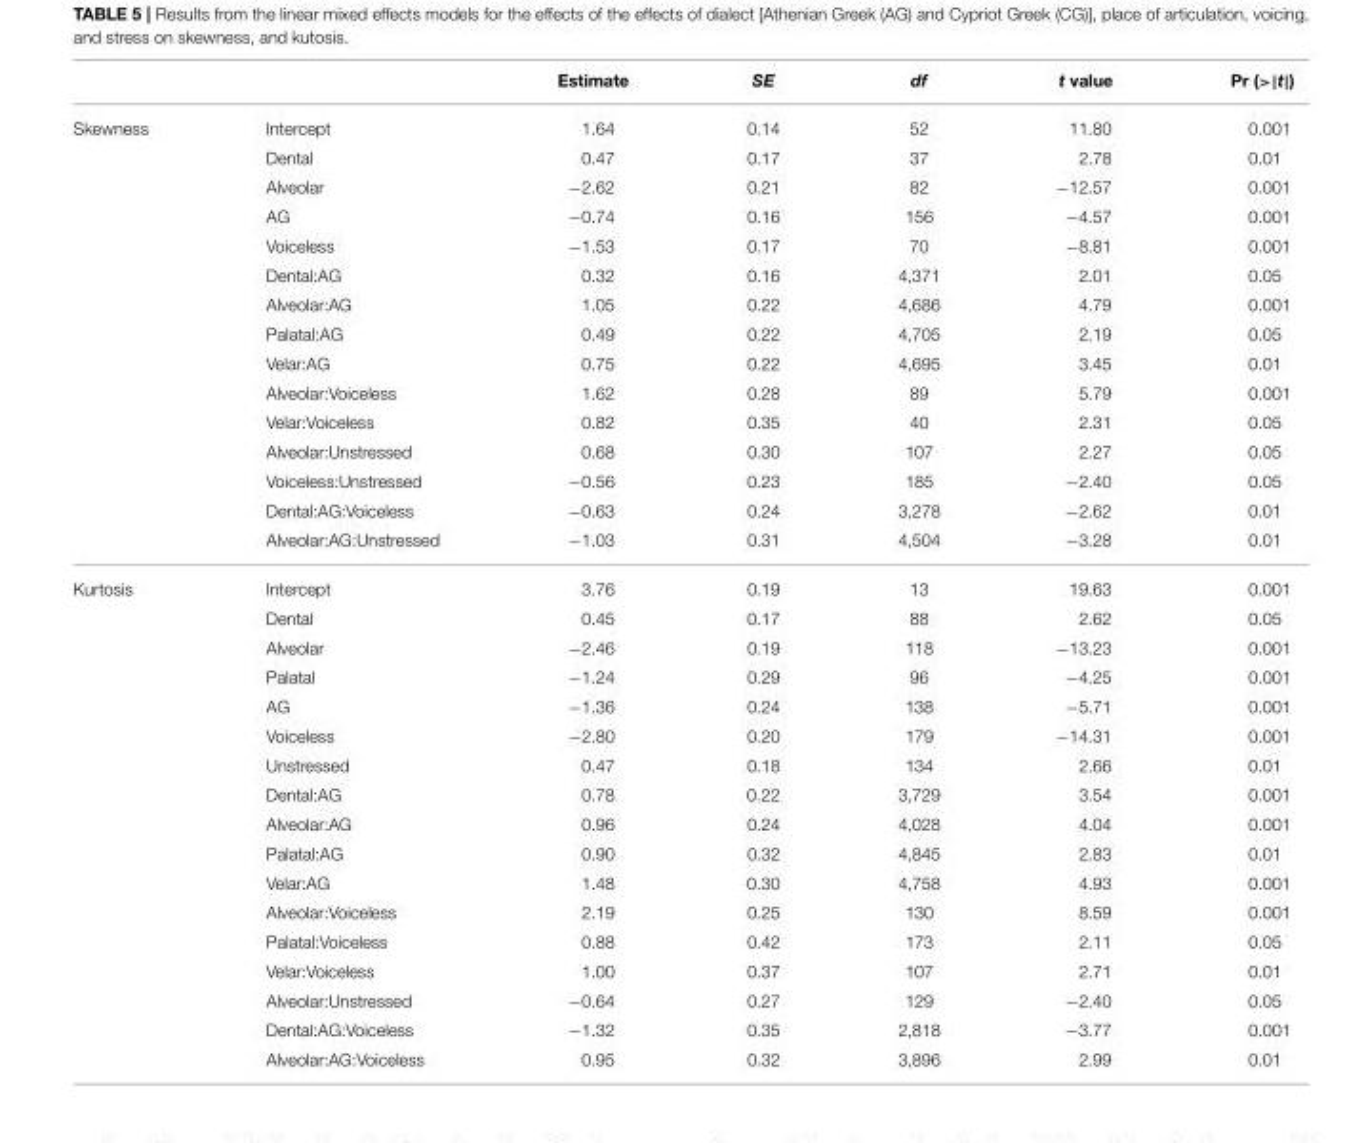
<table><thead><tr><td></td><td></td><td>Estimate</td><td>SE</td><td>df</td><td>t value</td><td>Pr (&gt;|t|)</td></tr></thead><tbody><tr><td rowspan="15">Skewness</td><td>Intercept</td><td>1.64</td><td>0.14</td><td>52</td><td>11.80</td><td>0.001</td></tr><tr><td>Dental</td><td>0.47</td><td>0.17</td><td>37</td><td>2.78</td><td>0.01</td></tr><tr><td>Alveolar</td><td>−2.62</td><td>0.21</td><td>82</td><td>−12.57</td><td>0.001</td></tr><tr><td>AG</td><td>−0.74</td><td>0.16</td><td>156</td><td>−4.57</td><td>0.001</td></tr><tr><td>Voiceless</td><td>−1.53</td><td>0.17</td><td>70</td><td>−8.81</td><td>0.001</td></tr><tr><td>Dental:AG</td><td>0.32</td><td>0.16</td><td>4,371</td><td>2.01</td><td>0.05</td></tr><tr><td>Alveolar:AG</td><td>1.05</td><td>0.22</td><td>4,686</td><td>4.79</td><td>0.001</td></tr><tr><td>Palatal:AG</td><td>0.49</td><td>0.22</td><td>4,705</td><td>2.19</td><td>0.05</td></tr><tr><td>Velar:AG</td><td>0.75</td><td>0.22</td><td>4,695</td><td>3.45</td><td>0.01</td></tr><tr><td>Alveolar:Voiceless</td><td>1.62</td><td>0.28</td><td>89</td><td>5.79</td><td>0.001</td></tr><tr><td>Velar:Voiceless</td><td>0.82</td><td>0.35</td><td>40</td><td>2.31</td><td>0.05</td></tr><tr><td>Alveolar:Unstressed</td><td>0.68</td><td>0.30</td><td>107</td><td>2.27</td><td>0.05</td></tr><tr><td>Voiceless:Unstressed</td><td>−0.56</td><td>0.23</td><td>185</td><td>−2.40</td><td>0.05</td></tr><tr><td>Dental:AG:Voiceless</td><td>−0.63</td><td>0.24</td><td>3,278</td><td>−2.62</td><td>0.01</td></tr><tr><td>Alveolar:AG:Unstressed</td><td>−1.03</td><td>0.31</td><td>4,504</td><td>−3.28</td><td>0.01</td></tr><tr><td rowspan="17">Kurtosis</td><td>Intercept</td><td>3.76</td><td>0.19</td><td>13</td><td>19.63</td><td>0.001</td></tr><tr><td>Dental</td><td>0.45</td><td>0.17</td><td>88</td><td>2.62</td><td>0.05</td></tr><tr><td>Alveolar</td><td>−2.46</td><td>0.19</td><td>118</td><td>−13.23</td><td>0.001</td></tr><tr><td>Palatal</td><td>−1.24</td><td>0.29</td><td>96</td><td>−4.25</td><td>0.001</td></tr><tr><td>AG</td><td>−1.36</td><td>0.24</td><td>138</td><td>−5.71</td><td>0.001</td></tr><tr><td>Voiceless</td><td>−2.80</td><td>0.20</td><td>179</td><td>−14.31</td><td>0.001</td></tr><tr><td>Unstressed</td><td>0.47</td><td>0.18</td><td>134</td><td>2.66</td><td>0.01</td></tr><tr><td>Dental:AG</td><td>0.78</td><td>0.22</td><td>3,729</td><td>3.54</td><td>0.001</td></tr><tr><td>Alveolar:AG</td><td>0.96</td><td>0.24</td><td>4,028</td><td>4.04</td><td>0.001</td></tr><tr><td>Palatal:AG</td><td>0.90</td><td>0.32</td><td>4,845</td><td>2.83</td><td>0.01</td></tr><tr><td>Velar:AG</td><td>1.48</td><td>0.30</td><td>4,758</td><td>4.93</td><td>0.001</td></tr><tr><td>Alveolar:Voiceless</td><td>2.19</td><td>0.25</td><td>130</td><td>8.59</td><td>0.001</td></tr><tr><td>Palatal:Voiceless</td><td>0.88</td><td>0.42</td><td>173</td><td>2.11</td><td>0.05</td></tr><tr><td>Velar:Voiceless</td><td>1.00</td><td>0.37</td><td>107</td><td>2.71</td><td>0.01</td></tr><tr><td>Alveolar:Unstressed</td><td>−0.64</td><td>0.27</td><td>129</td><td>−2.40</td><td>0.05</td></tr><tr><td>Dental:AG:Voiceless</td><td>−1.32</td><td>0.35</td><td>2,818</td><td>−3.77</td><td>0.001</td></tr><tr><td>Alveolar:AG:Voiceless</td><td>0.95</td><td>0.32</td><td>3,896</td><td>2.99</td><td>0.01</td></tr></tbody></table>